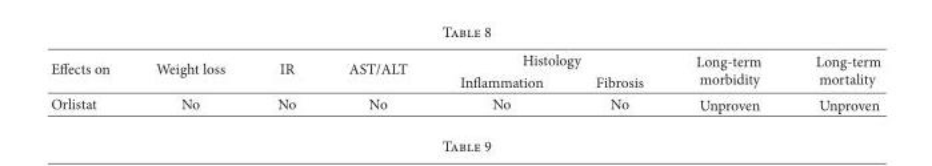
<table><thead><tr><td rowspan="2">Effects on</td><td rowspan="2">Weight loss</td><td rowspan="2">IR</td><td rowspan="2">AST/ALT</td><td colspan="2">Histology</td><td rowspan="2">Long-term morbidity</td><td rowspan="2">Long-term mortality</td></tr><tr><td>Inflammation</td><td>Fibrosis</td></tr></thead><tbody><tr><td>Orlistat</td><td>No</td><td>No</td><td>No</td><td>No</td><td>No</td><td>Unproven</td><td>Unproven</td></tr></tbody></table>